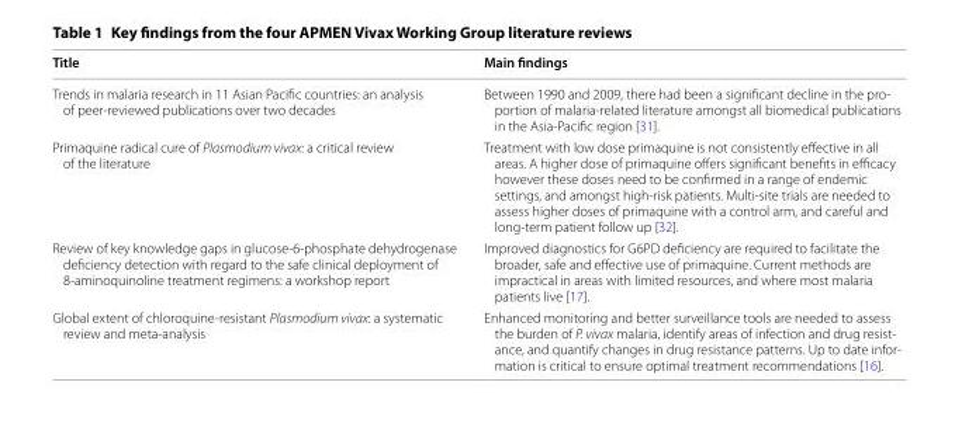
<table><thead><tr><td>Title</td><td>Main findings</td></tr></thead><tbody><tr><td>Trends in malaria research in 11 Asian Pacific countries: an analysis of peer-reviewed publications over two decades</td><td>Between 1990 and 2009, there had been a significant decline in the pro- portion of malaria-related literature amongst all biomedical publications in the Asia-Pacific region [31].</td></tr><tr><td>Primaquine radical cure of Plasmodium vivax: a critical review of the literature</td><td>Treatment with low dose primaquine is not consistently effective in all areas. A higher dose of primaquine offers significant benefits in efficacy however these doses need to be confirmed in a range of endemic settings, and amongst high-risk patients. Multi-site trials are needed to assess higher doses of primaquine with a control arm, and careful and long-term patient follow up [32].</td></tr><tr><td>Review of key knowledge gaps in glucose-6-phosphate dehydrogenase deficiency detection with regard to the safe clinical deployment of 8-aminoquinoline treatment regimens: a workshop report</td><td>Improved diagnostics for G6PD deficiency are required to facilitate the broader, safe and effective use of primaquine. Current methods are impractical in areas with limited resources, and where most malaria patients live [17].</td></tr><tr><td>Global extent of chloroquine-resistant Plasmodium vivax: a systematic review and meta-analysis</td><td>Enhanced monitoring and better surveillance tools are needed to assess the burden of P. vivax malaria, identify areas of infection and drug resist- ance, and quantify changes in drug resistance patterns. Up to date infor- mation is critical to ensure optimal treatment recommendations [16].</td></tr></tbody></table>